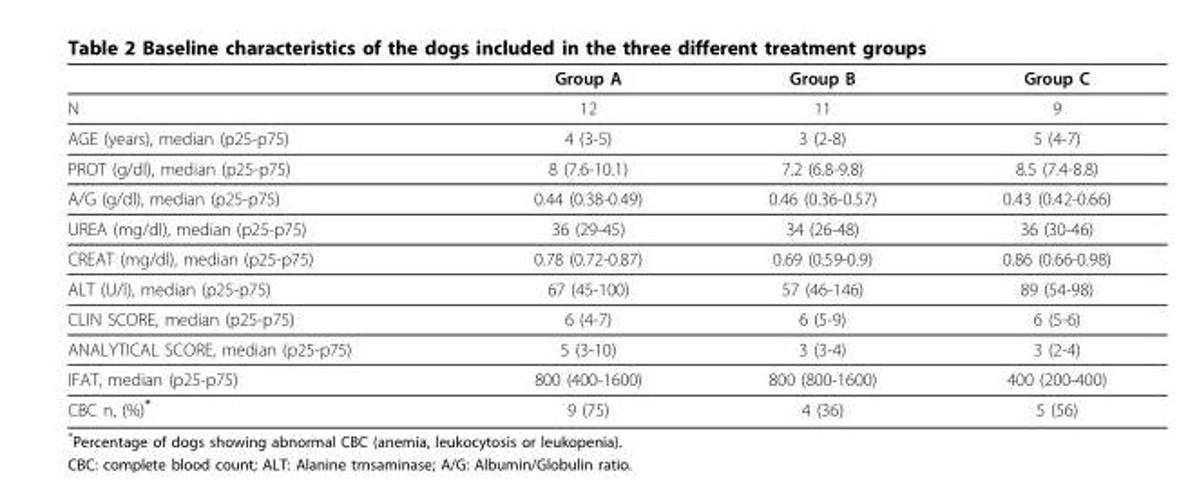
<table><thead><tr><td></td><td>Group A</td><td>Group B</td><td>Group C</td></tr></thead><tbody><tr><td>N</td><td>12</td><td>11</td><td>9</td></tr><tr><td>AGE (years), median (p25-p75)</td><td>4 (3-5)</td><td>3 (2-8)</td><td>5 (4-7)</td></tr><tr><td>PROT (g/dl), median (p25-p75)</td><td>8 (7.6-10.1)</td><td>7.2 (6.8-9.8)</td><td>8.5 (7.4-8.8)</td></tr><tr><td>A/G (g/dl), median (p25-p75)</td><td>0.44 (0.38-0.49)</td><td>0.46 (0.36-0.57)</td><td>0.43 (0.42-0.66)</td></tr><tr><td>UREA (mg/dl), median (p25-p75)</td><td>36 (29-45)</td><td>34 (26-48)</td><td>36 (30-46)</td></tr><tr><td>CREAT (mg/dl), median (p25-p75)</td><td>0.78 (0.72-0.87)</td><td>0.69 (0.59-0.9)</td><td>0.86 (0.66-0.98)</td></tr><tr><td>ALT (U/l), median (p25-p75)</td><td>67 (45-100)</td><td>57 (46-146)</td><td>89 (54-98)</td></tr><tr><td>CLIN SCORE, median (p25-p75)</td><td>6 (4-7)</td><td>6 (5-9)</td><td>6 (5-6)</td></tr><tr><td>ANALYTICAL SCORE, median (p25-p75)</td><td>5 (3-10)</td><td>3 (3-4)</td><td>3 (2-4)</td></tr><tr><td>IFAT, median (p25-p75)</td><td>800 (400-1600)</td><td>800 (800-1600)</td><td>400 (200-400)</td></tr><tr><td>CBC n, (%)*</td><td>9 (75)</td><td>4 (36)</td><td>5 (56)</td></tr></tbody></table>